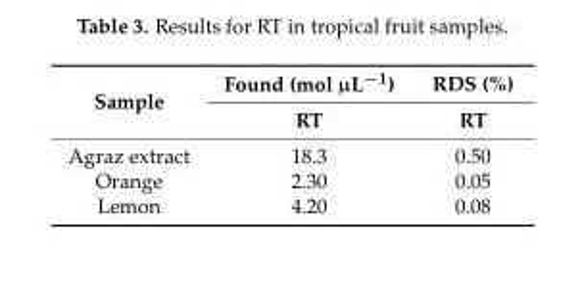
<table><thead><tr><td rowspan="2">Sample</td><td rowspan="2">Found (mol µL<sup>−1</sup>) RT</td><td rowspan="2">RDS (%) RT</td></tr><tr></tr></thead><tbody><tr><td>Agraz extract</td><td>18.3</td><td>0.50</td></tr><tr><td>Orange</td><td>2.30</td><td>0.05</td></tr><tr><td>Lemon</td><td>4.20</td><td>0.08</td></tr></tbody></table>